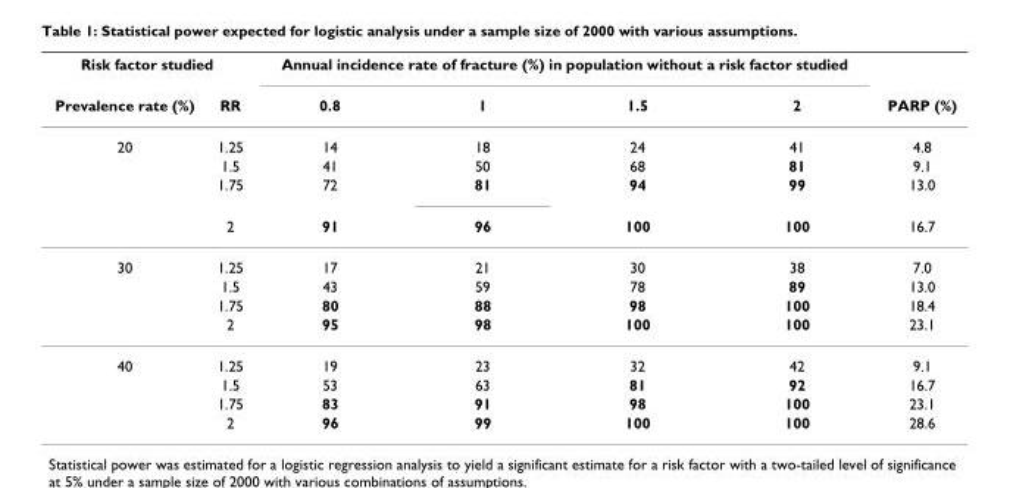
<table><thead><tr><td colspan="2">Risk factor studied</td><td colspan="4">Annual incidence rate of fracture (%) in population without a risk factor studied</td><td rowspan="2">PARP (%)</td></tr><tr><td>Prevalence rate (%)</td><td>RR</td><td>0.8</td><td>1</td><td>1.5</td><td>2</td></tr></thead><tbody><tr><td rowspan="4">20</td><td>1.25</td><td>14</td><td>18</td><td>24</td><td>41</td><td>4.8</td></tr><tr><td>1.5</td><td>41</td><td>50</td><td>68</td><td>81</td><td>9.1</td></tr><tr><td>1.75</td><td>72</td><td>81</td><td>94</td><td>99</td><td>13.0</td></tr><tr><td>2</td><td>91</td><td>96</td><td>100</td><td>100</td><td>16.7</td></tr><tr><td rowspan="4">30</td><td>1.25</td><td>17</td><td>21</td><td>30</td><td>38</td><td>7.0</td></tr><tr><td>1.5</td><td>43</td><td>59</td><td>78</td><td>89</td><td>13.0</td></tr><tr><td>1.75</td><td>80</td><td>88</td><td>98</td><td>100</td><td>18.4</td></tr><tr><td>2</td><td>95</td><td>98</td><td>100</td><td>100</td><td>23.1</td></tr><tr><td rowspan="4">40</td><td>1.25</td><td>19</td><td>23</td><td>32</td><td>42</td><td>9.1</td></tr><tr><td>1.5</td><td>53</td><td>63</td><td>81</td><td>92</td><td>16.7</td></tr><tr><td>1.75</td><td>83</td><td>91</td><td>98</td><td>100</td><td>23.1</td></tr><tr><td>2</td><td>96</td><td>99</td><td>100</td><td>100</td><td>28.6</td></tr></tbody></table>